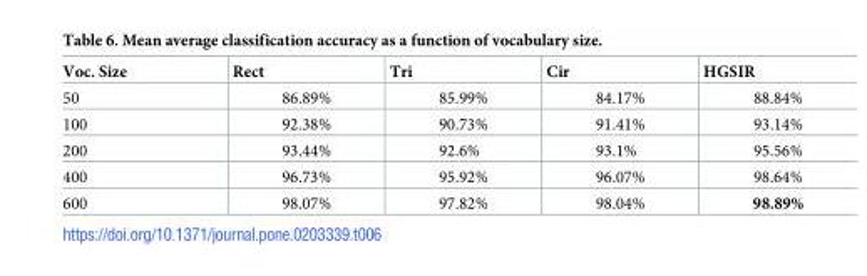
<table><thead><tr><td>Voc. Size</td><td>Rect</td><td>Tri</td><td>Cir</td><td>HGSIR</td></tr></thead><tbody><tr><td>50</td><td>86.89%</td><td>85.99%</td><td>84.17%</td><td>88.84%</td></tr><tr><td>100</td><td>92.38%</td><td>90.73%</td><td>91.41%</td><td>93.14%</td></tr><tr><td>200</td><td>93.44%</td><td>92.6%</td><td>93.1%</td><td>95.56%</td></tr><tr><td>400</td><td>96.73%</td><td>95.92%</td><td>96.07%</td><td>98.64%</td></tr><tr><td>600</td><td>98.07%</td><td>97.82%</td><td>98.04%</td><td>98.89%</td></tr></tbody></table>